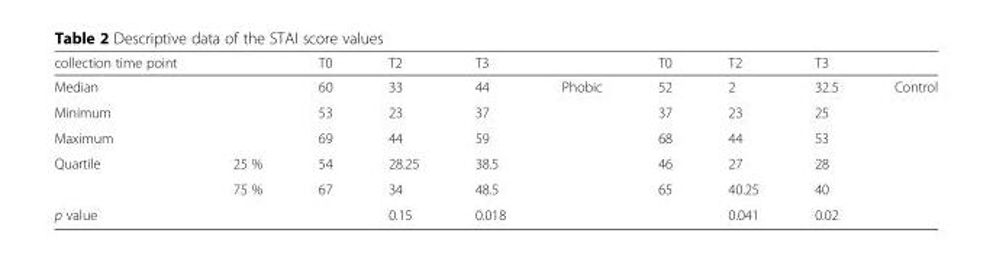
<table><thead><tr><td>collection time point</td><td></td><td>T0</td><td>T2</td><td>T3</td><td></td><td>T0</td><td>T2</td><td>T3</td><td></td></tr></thead><tbody><tr><td>Median</td><td></td><td>60</td><td>33</td><td>44</td><td rowspan="6">Phobic</td><td>52</td><td>2</td><td>32.5</td><td rowspan="6">Control</td></tr><tr><td>Minimum</td><td></td><td>53</td><td>23</td><td>37</td><td>37</td><td>23</td><td>25</td></tr><tr><td>Maximum</td><td></td><td>69</td><td>44</td><td>59</td><td>68</td><td>44</td><td>53</td></tr><tr><td rowspan="2">Quartile</td><td>25 %</td><td>54</td><td>28.25</td><td>38.5</td><td>46</td><td>27</td><td>28</td></tr><tr><td>75 %</td><td>67</td><td>34</td><td>48.5</td><td>65</td><td>40.25</td><td>40</td></tr><tr><td>p value</td><td></td><td></td><td>0.15</td><td>0.018</td><td></td><td>0.041</td><td>0.02</td></tr></tbody></table>